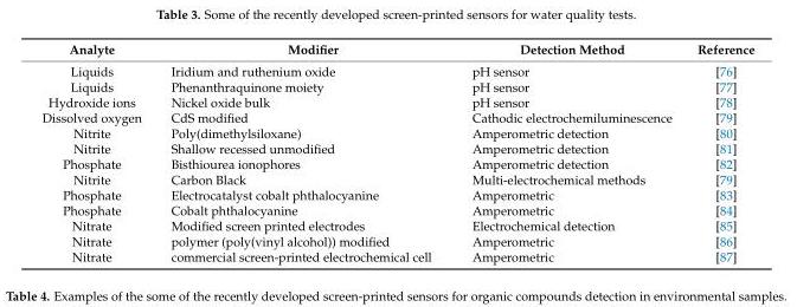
<table><thead><tr><td>Analyte</td><td>Modifier</td><td>Detection Method</td><td>Reference</td></tr></thead><tbody><tr><td>Liquids</td><td>Iridium and ruthenium oxide</td><td>pH sensor</td><td>[76]</td></tr><tr><td>Liquids</td><td>Phenanthraquinone moiety</td><td>pH sensor</td><td>[77]</td></tr><tr><td>Hydroxide ions</td><td>Nickel oxide bulk</td><td>pH sensor</td><td>[78]</td></tr><tr><td>Dissolved oxygen</td><td>CdS modified</td><td>Cathodic electrochemiluminescence</td><td>[79]</td></tr><tr><td>Nitrite</td><td>Poly(dimethylsiloxane)</td><td>Amperometric detection</td><td>[80]</td></tr><tr><td>Nitrite</td><td>Shallow recessed unmodified</td><td>Amperometric detection</td><td>[81]</td></tr><tr><td>Phosphate</td><td>Bisthiourea ionophores</td><td>Amperometric detection</td><td>[82]</td></tr><tr><td>Nitrite</td><td>Carbon Black</td><td>Multi-electrochemical methods</td><td>[79]</td></tr><tr><td>Phosphate</td><td>Electrocatalyst cobalt phthalocyanine</td><td>Amperometric</td><td>[83]</td></tr><tr><td>Phosphate</td><td>Cobalt phthalocyanine</td><td>Amperometric</td><td>[84]</td></tr><tr><td>Nitrate</td><td>Modified screen printed electrodes</td><td>Electrochemical detection</td><td>[85]</td></tr><tr><td>Nitrate</td><td>polymer (poly(vinyl alcohol)) modified</td><td>Amperometric</td><td>[86]</td></tr><tr><td>Nitrate</td><td>commercial screen-printed electrochemical cell</td><td>Amperometric</td><td>[87]</td></tr></tbody></table>